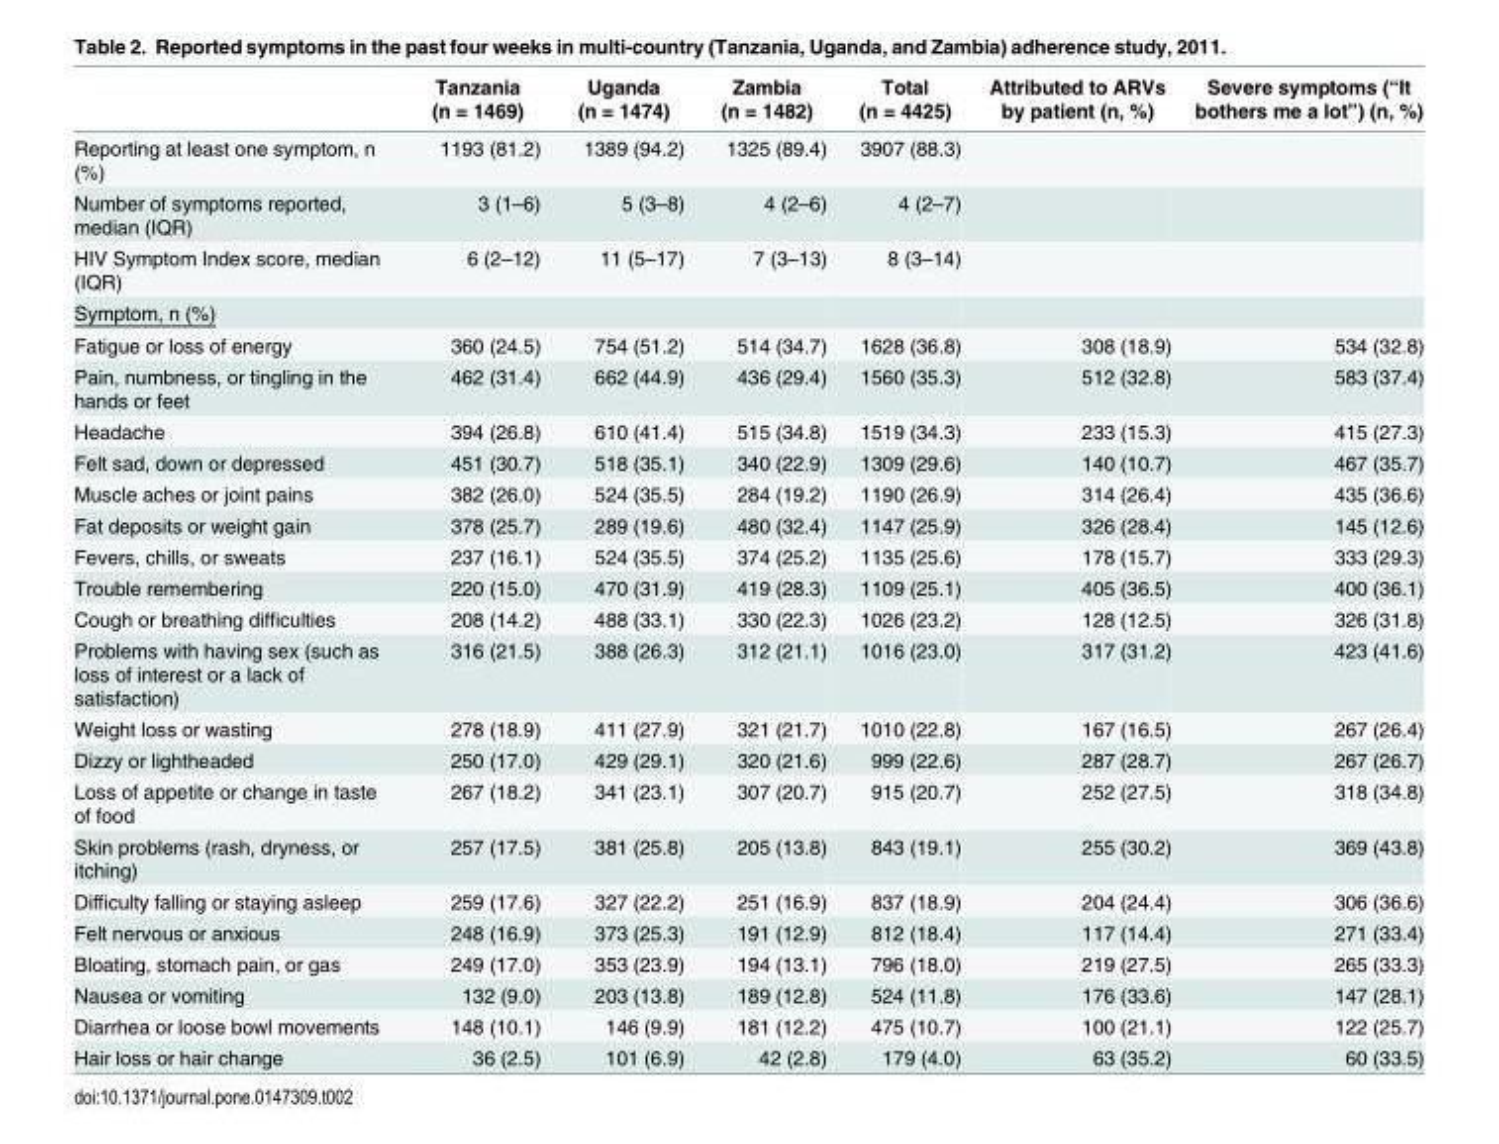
<table><thead><tr><td></td><td>Tanzania (n = 1469)</td><td>Uganda (n = 1474)</td><td>Zambia (n = 1482)</td><td>Total (n = 4425)</td><td>Attributed to ARVs by patient (n, %)</td><td>Severe symptoms (“It bothers me a lot”) (n, %)</td></tr></thead><tbody><tr><td>Reporting at least one symptom, n (%)</td><td>1193 (81.2)</td><td>1389 (94.2)</td><td>1325 (89.4)</td><td>3907 (88.3)</td><td></td><td></td></tr><tr><td>Number of symptoms reported, median (IQR)</td><td>3 (1–6)</td><td>5 (3–8)</td><td>4 (2–6)</td><td>4 (2–7)</td><td></td><td></td></tr><tr><td>HIV Symptom Index score, median (IQR)</td><td>6 (2–12)</td><td>11 (5–17)</td><td>7 (3–13)</td><td>8 (3–14)</td><td></td><td></td></tr><tr><td colspan="7">Symptom, n (%)</td></tr><tr><td>Fatigue or loss of energy</td><td>360 (24.5)</td><td>754 (51.2)</td><td>514 (34.7)</td><td>1628 (36.8)</td><td>308 (18.9)</td><td>534 (32.8)</td></tr><tr><td>Pain, numbness, or tingling in the hands or feet</td><td>462 (31.4)</td><td>662 (44.9)</td><td>436 (29.4)</td><td>1560 (35.3)</td><td>512 (32.8)</td><td>583 (37.4)</td></tr><tr><td>Headache</td><td>394 (26.8)</td><td>610 (41.4)</td><td>515 (34.8)</td><td>1519 (34.3)</td><td>233 (15.3)</td><td>415 (27.3)</td></tr><tr><td>Felt sad, down or depressed</td><td>451 (30.7)</td><td>518 (35.1)</td><td>340 (22.9)</td><td>1309 (29.6)</td><td>140 (10.7)</td><td>467 (35.7)</td></tr><tr><td>Muscle aches or joint pains</td><td>382 (26.0)</td><td>524 (35.5)</td><td>284 (19.2)</td><td>1190 (26.9)</td><td>314 (26.4)</td><td>435 (36.6)</td></tr><tr><td>Fat deposits or weight gain</td><td>378 (25.7)</td><td>289 (19.6)</td><td>480 (32.4)</td><td>1147 (25.9)</td><td>326 (28.4)</td><td>145 (12.6)</td></tr><tr><td>Fevers, chills, or sweats</td><td>237 (16.1)</td><td>524 (35.5)</td><td>374 (25.2)</td><td>1135 (25.6)</td><td>178 (15.7)</td><td>333 (29.3)</td></tr><tr><td>Trouble remembering</td><td>220 (15.0)</td><td>470 (31.9)</td><td>419 (28.3)</td><td>1109 (25.1)</td><td>405 (36.5)</td><td>400 (36.1)</td></tr><tr><td>Cough or breathing difficulties</td><td>208 (14.2)</td><td>488 (33.1)</td><td>330 (22.3)</td><td>1026 (23.2)</td><td>128 (12.5)</td><td>326 (31.8)</td></tr><tr><td>Problems with having sex (such as loss of interest or a lack of satisfaction)</td><td>316 (21.5)</td><td>388 (26.3)</td><td>312 (21.1)</td><td>1016 (23.0)</td><td>317 (31.2)</td><td>423 (41.6)</td></tr><tr><td>Weight loss or wasting</td><td>278 (18.9)</td><td>411 (27.9)</td><td>321 (21.7)</td><td>1010 (22.8)</td><td>167 (16.5)</td><td>267 (26.4)</td></tr><tr><td>Dizzy or lightheaded</td><td>250 (17.0)</td><td>429 (29.1)</td><td>320 (21.6)</td><td>999 (22.6)</td><td>287 (28.7)</td><td>267 (26.7)</td></tr><tr><td>Loss of appetite or change in taste of food</td><td>267 (18.2)</td><td>341 (23.1)</td><td>307 (20.7)</td><td>915 (20.7)</td><td>252 (27.5)</td><td>318 (34.8)</td></tr><tr><td>Skin problems (rash, dryness, or itching)</td><td>257 (17.5)</td><td>381 (25.8)</td><td>205 (13.8)</td><td>843 (19.1)</td><td>255 (30.2)</td><td>369 (43.8)</td></tr><tr><td>Difficulty falling or staying asleep</td><td>259 (17.6)</td><td>327 (22.2)</td><td>251 (16.9)</td><td>837 (18.9)</td><td>204 (24.4)</td><td>306 (36.6)</td></tr><tr><td>Felt nervous or anxious</td><td>248 (16.9)</td><td>373 (25.3)</td><td>191 (12.9)</td><td>812 (18.4)</td><td>117 (14.4)</td><td>271 (33.4)</td></tr><tr><td>Bloating, stomach pain, or gas</td><td>249 (17.0)</td><td>353 (23.9)</td><td>194 (13.1)</td><td>796 (18.0)</td><td>219 (27.5)</td><td>265 (33.3)</td></tr><tr><td>Nausea or vomiting</td><td>132 (9.0)</td><td>203 (13.8)</td><td>189 (12.8)</td><td>524 (11.8)</td><td>176 (33.6)</td><td>147 (28.1)</td></tr><tr><td>Diarrhea or loose bowl movements</td><td>148 (10.1)</td><td>146 (9.9)</td><td>181 (12.2)</td><td>475 (10.7)</td><td>100 (21.1)</td><td>122 (25.7)</td></tr><tr><td>Hair loss or hair change</td><td>36 (2.5)</td><td>101 (6.9)</td><td>42 (2.8)</td><td>179 (4.0)</td><td>63 (35.2)</td><td>60 (33.5)</td></tr></tbody></table>